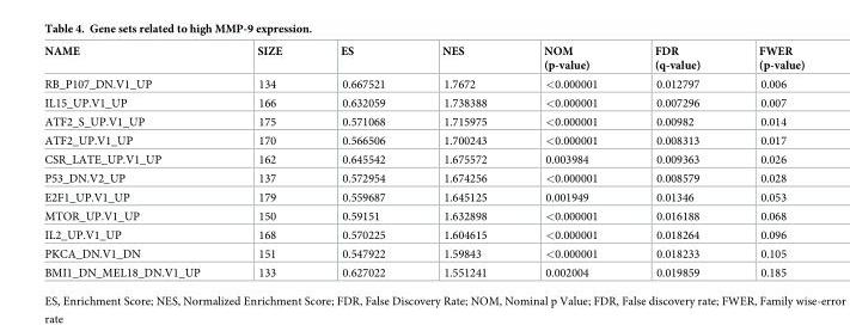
<table><thead><tr><td>NAME</td><td>SIZE</td><td>ES</td><td>NES</td><td>NOM (p-value)</td><td>FDR (q-value)</td><td>FWER (p-value)</td></tr></thead><tbody><tr><td>RB_P107_DN.V1_UP</td><td>134</td><td>0.667521</td><td>1.7672</td><td>&lt;0.000001</td><td>0.012797</td><td>0.006</td></tr><tr><td>IL15_UP.V1_UP</td><td>166</td><td>0.632059</td><td>1.738388</td><td>&lt;0.000001</td><td>0.007296</td><td>0.007</td></tr><tr><td>ATF2_S_UP.V1_UP</td><td>175</td><td>0.571068</td><td>1.715975</td><td>&lt;0.000001</td><td>0.00982</td><td>0.014</td></tr><tr><td>ATF2_UP.V1_UP</td><td>170</td><td>0.566506</td><td>1.700243</td><td>&lt;0.000001</td><td>0.008313</td><td>0.017</td></tr><tr><td>CSR_LATE_UP.V1_UP</td><td>162</td><td>0.645542</td><td>1.675572</td><td>0.003984</td><td>0.009363</td><td>0.026</td></tr><tr><td>P53_DN.V2_UP</td><td>137</td><td>0.572954</td><td>1.674256</td><td>&lt;0.000001</td><td>0.008579</td><td>0.028</td></tr><tr><td>E2F1_UP.V1_UP</td><td>179</td><td>0.559687</td><td>1.645125</td><td>0.001949</td><td>0.01346</td><td>0.053</td></tr><tr><td>MTOR_UP.V1_UP</td><td>150</td><td>0.59151</td><td>1.632898</td><td>&lt;0.000001</td><td>0.016188</td><td>0.068</td></tr><tr><td>IL2_UP.V1_UP</td><td>168</td><td>0.570225</td><td>1.604615</td><td>&lt;0.000001</td><td>0.018264</td><td>0.096</td></tr><tr><td>PKCA_DN.V1_DN</td><td>151</td><td>0.547922</td><td>1.59843</td><td>&lt;0.000001</td><td>0.018233</td><td>0.105</td></tr><tr><td>BMI1_DN_MEL18_DN.V1_UP</td><td>133</td><td>0.627022</td><td>1.551241</td><td>0.002004</td><td>0.019859</td><td>0.185</td></tr></tbody></table>